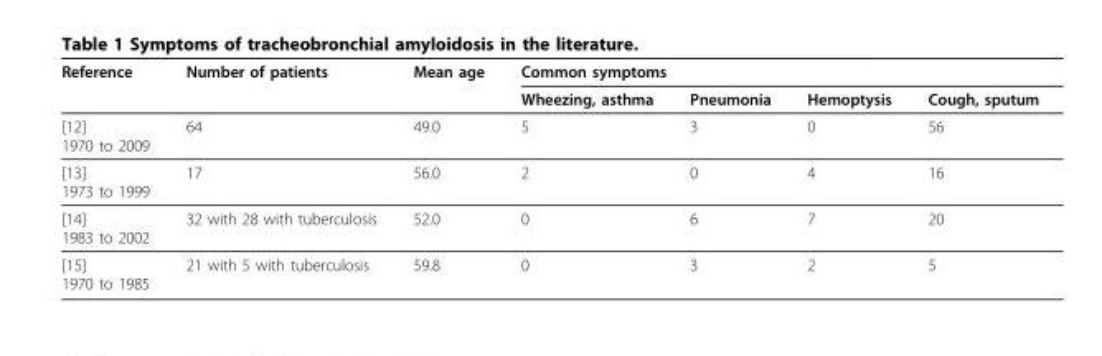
<table><thead><tr><td rowspan="2">Reference</td><td rowspan="2">Number of patients</td><td rowspan="2">Mean age</td><td colspan="4">Common symptoms</td></tr><tr><td>Wheezing, asthma</td><td>Pneumonia</td><td>Hemoptysis</td><td>Cough, sputum</td></tr></thead><tbody><tr><td>[12] 1970 to 2009</td><td>64</td><td>49.0</td><td>5</td><td>3</td><td>0</td><td>56</td></tr><tr><td>[13] 1973 to 1999</td><td>17</td><td>56.0</td><td>2</td><td>0</td><td>4</td><td>16</td></tr><tr><td>[14] 1983 to 2002</td><td>32 with 28 with tuberculosis</td><td>52.0</td><td>0</td><td>6</td><td>7</td><td>20</td></tr><tr><td>[15] 1970 to 1985</td><td>21 with 5 with tuberculosis</td><td>59.8</td><td>0</td><td>3</td><td>2</td><td>5</td></tr></tbody></table>